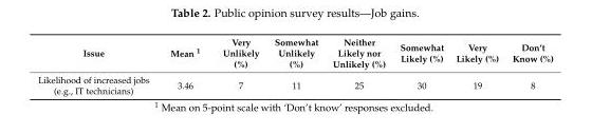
<table><thead><tr><td>Issue</td><td>Mean <sup>1</sup></td><td>Very Unlikely (%)</td><td>Somewhat Unlikely (%)</td><td>Neither Likely nor Unlikely (%)</td><td>Somewhat Likely (%)</td><td>Very Likely (%)</td><td>Don’t Know (%)</td></tr></thead><tbody><tr><td>Likelihood of increased jobs (e.g., IT technicians)</td><td>3.46</td><td>7</td><td>11</td><td>25</td><td>30</td><td>19</td><td>8</td></tr></tbody></table>